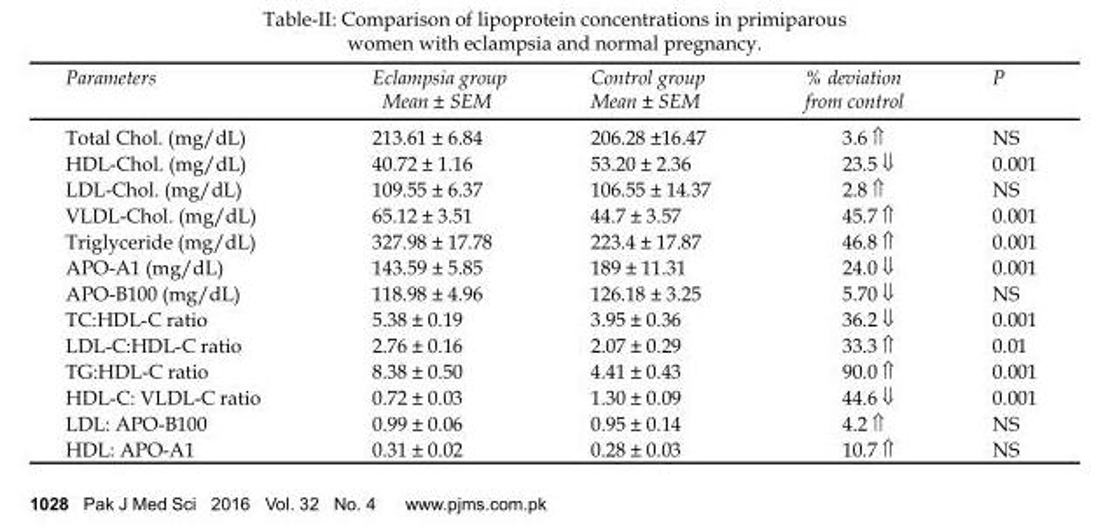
<table><thead><tr><td>Parameters</td><td>Eclampsia group Mean ± SEM</td><td>Control group Mean ± SEM</td><td>% deviation from control</td><td>P</td></tr></thead><tbody><tr><td>Total Chol. (mg/dL)</td><td>213.61 ± 6.84</td><td>206.28 ±16.47</td><td>3.6 ⇑</td><td>NS</td></tr><tr><td>HDL-Chol. (mg/dL)</td><td>40.72 ± 1.16</td><td>53.20 ± 2.36</td><td>23.5 ⇓</td><td>0.001</td></tr><tr><td>LDL-Chol. (mg/dL)</td><td>109.55 ± 6.37</td><td>106.55 ± 14.37</td><td>2.8 ⇑</td><td>NS</td></tr><tr><td>VLDL-Chol. (mg/dL)</td><td>65.12 ± 3.51</td><td>44.7 ± 3.57</td><td>45.7 ⇑</td><td>0.001</td></tr><tr><td>Triglyceride (mg/dL)</td><td>327.98 ± 17.78</td><td>223.4 ± 17.87</td><td>46.8 ⇑</td><td>0.001</td></tr><tr><td>APO-A1 (mg/dL)</td><td>143.59 ± 5.85</td><td>189 ± 11.31</td><td>24.0 ⇓</td><td>0.001</td></tr><tr><td>APO-B100 (mg/dL)</td><td>118.98 ± 4.96</td><td>126.18 ± 3.25</td><td>5.70 ⇓</td><td>NS</td></tr><tr><td>TC:HDL-C ratio</td><td>5.38 ± 0.19</td><td>3.95 ± 0.36</td><td>36.2 ⇓</td><td>0.001</td></tr><tr><td>LDL-C:HDL-C ratio</td><td>2.76 ± 0.16</td><td>2.07 ± 0.29</td><td>33.3 ⇑</td><td>0.01</td></tr><tr><td>TG:HDL-C ratio</td><td>8.38 ± 0.50</td><td>4.41 ± 0.43</td><td>90.0 ⇑</td><td>0.001</td></tr><tr><td>HDL-C: VLDL-C ratio</td><td>0.72 ± 0.03</td><td>1.30 ± 0.09</td><td>44.6 ⇓</td><td>0.001</td></tr><tr><td>LDL: APO-B100</td><td>0.99 ± 0.06</td><td>0.95 ± 0.14</td><td>4.2 ⇑</td><td>NS</td></tr><tr><td>HDL: APO-A1</td><td>0.31 ± 0.02</td><td>0.28 ± 0.03</td><td>10.7 ⇑</td><td>NS</td></tr></tbody></table>